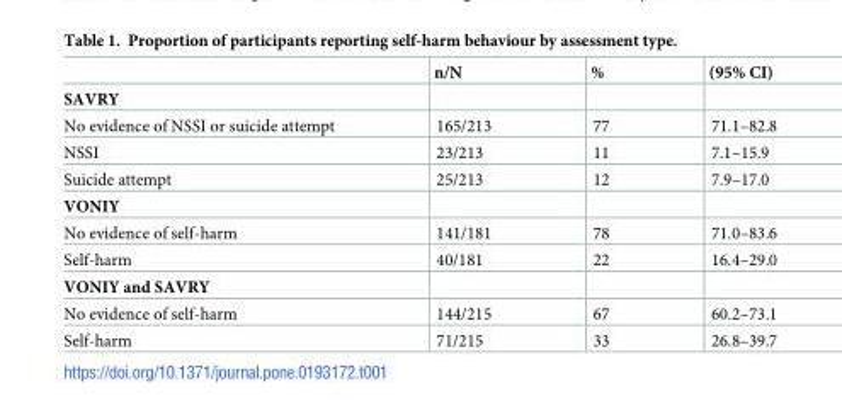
<table><thead><tr><td></td><td>n/N</td><td>%</td><td>(95% CI)</td></tr></thead><tbody><tr><td colspan="4">SAVRY</td></tr><tr><td>No evidence of NSSI or suicide attempt</td><td>165/213</td><td>77</td><td>71.1–82.8</td></tr><tr><td>NSSI</td><td>23/213</td><td>11</td><td>7.1–15.9</td></tr><tr><td>Suicide attempt</td><td>25/213</td><td>12</td><td>7.9–17.0</td></tr><tr><td colspan="4">VONIY</td></tr><tr><td>No evidence of self-harm</td><td>141/181</td><td>78</td><td>71.0–83.6</td></tr><tr><td>Self-harm</td><td>40/181</td><td>22</td><td>16.4–29.0</td></tr><tr><td colspan="4">VONIY and SAVRY</td></tr><tr><td>No evidence of self-harm</td><td>144/215</td><td>67</td><td>60.2–73.1</td></tr><tr><td>Self-harm</td><td>71/215</td><td>33</td><td>26.8–39.7</td></tr></tbody></table>